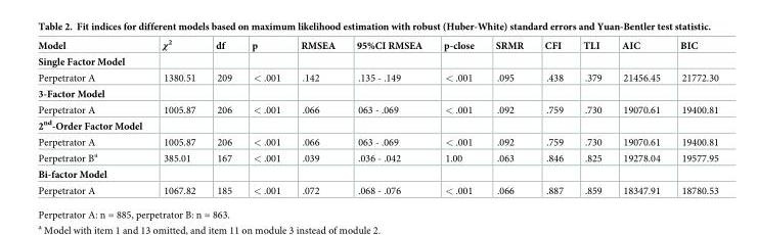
<table><thead><tr><td>Model</td><td>χ<sup>2</sup></td><td>df</td><td>p</td><td>RMSEA</td><td>95%CI RMSEA</td><td>p-close</td><td>SRMR</td><td>CFI</td><td>TLI</td><td>AIC</td><td>BIC</td></tr></thead><tbody><tr><td colspan="12">Single Factor Model</td></tr><tr><td>Perpetrator A</td><td>1380.51</td><td>209</td><td>&lt; .001</td><td>.142</td><td>.135 - .149</td><td>&lt; .001</td><td>.095</td><td>.438</td><td>.379</td><td>21456.45</td><td>21772.30</td></tr><tr><td colspan="12">3-Factor Model</td></tr><tr><td>Perpetrator A</td><td>1005.87</td><td>206</td><td>&lt; .001</td><td>.066</td><td>063 - .069</td><td>&lt; .001</td><td>.092</td><td>.759</td><td>.730</td><td>19070.61</td><td>19400.81</td></tr><tr><td colspan="12">2<sup>nd</sup>-Order Factor Model</td></tr><tr><td>Perpetrator A</td><td>1005.87</td><td>206</td><td>&lt; .001</td><td>.066</td><td>063 - .069</td><td>&lt; .001</td><td>.092</td><td>.759</td><td>.730</td><td>19070.61</td><td>19400.81</td></tr><tr><td>Perpetrator B<sup>a</sup></td><td>385.01</td><td>167</td><td>&lt; .001</td><td>.039</td><td>.036 - .042</td><td>1.00</td><td>.063</td><td>.846</td><td>.825</td><td>19278.04</td><td>19577.95</td></tr><tr><td colspan="12">Bi-factor Model</td></tr><tr><td>Perpetrator A</td><td>1067.82</td><td>185</td><td>&lt; .001</td><td>.072</td><td>.068 - .076</td><td>&lt; .001</td><td>.066</td><td>.887</td><td>.859</td><td>18347.91</td><td>18780.53</td></tr></tbody></table>